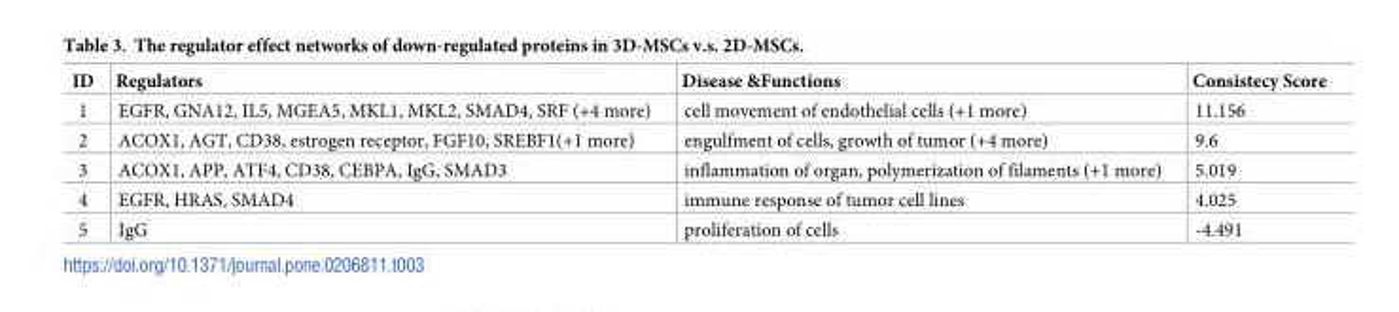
<table><thead><tr><td>ID</td><td>Regulators</td><td>Disease &amp;Functions</td><td>Consistecy Score</td></tr></thead><tbody><tr><td>1</td><td>EGFR, GNA12, IL5, MGEA5, MKL1, MKL2, SMAD4, SRF (+4 more)</td><td>cell movement of endothelial cells (+1 more)</td><td>11.156</td></tr><tr><td>2</td><td>ACOX1, AGT, CD38, estrogen receptor, FGF10, SREBF1(+1 more)</td><td>engulfment of cells, growth of tumor (+4 more)</td><td>9.6</td></tr><tr><td>3</td><td>ACOX1, APP, ATF4, CD38, CEBPA, IgG, SMAD3</td><td>inflammation of organ, polymerization of filaments (+1 more)</td><td>5.019</td></tr><tr><td>4</td><td>EGFR, HRAS, SMAD4</td><td>immune response of tumor cell lines</td><td>4.025</td></tr><tr><td>5</td><td>IgG</td><td>proliferation of cells</td><td>-4.491</td></tr></tbody></table>